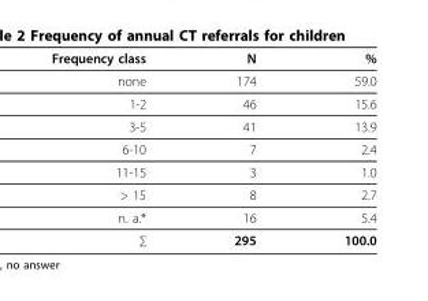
<table><thead><tr><td>Frequency class</td><td>N</td><td>%</td></tr></thead><tbody><tr><td>none</td><td>174</td><td>59.0</td></tr><tr><td>1-2</td><td>46</td><td>15.6</td></tr><tr><td>3-5</td><td>41</td><td>13.9</td></tr><tr><td>6-10</td><td>7</td><td>2.4</td></tr><tr><td>11-15</td><td>3</td><td>1.0</td></tr><tr><td>&gt; 15</td><td>8</td><td>2.7</td></tr><tr><td>n. a.*</td><td>16</td><td>5.4</td></tr><tr><td>∑</td><td>295</td><td>100.0</td></tr></tbody></table>